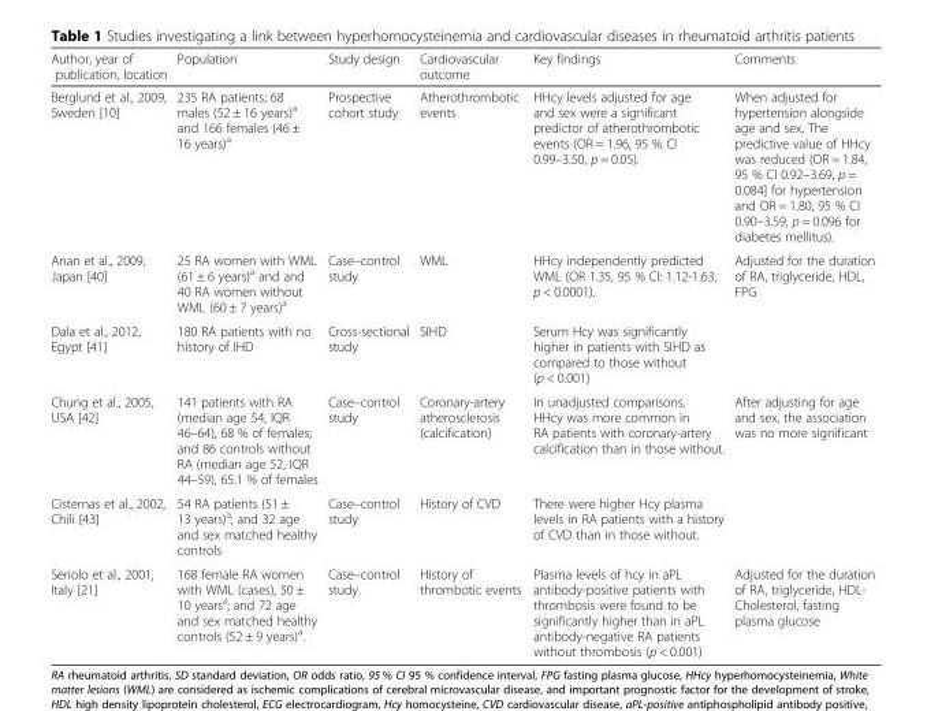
<table><thead><tr><td>Author, year of publication, location</td><td>Population</td><td>Study design</td><td>Cardiovascular outcome</td><td>Key findings</td><td>Comments</td></tr></thead><tbody><tr><td>Berglund et al., 2009, Sweden [10]</td><td>235 RA patients; 68 males (52 ± 16 years)<sup>a</sup> and 166 females (46 ± 16 years)<sup>a</sup></td><td>Prospective cohort study</td><td>Atherothrombotic events</td><td>HHcy levels adjusted for age and sex were a significant predictor of atherothrombotic events (OR = 1.96, 95 % CI 0.99–3.50, p = 0.05).</td><td>When adjusted for hypertension alongside age and sex, The predictive value of HHcy was reduced (OR = 1.84, 95 % CI 0.92–3.69, p = 0.084] for hypertension and OR = 1.80, 95 % CI 0.90–3.59, p = 0.096 for diabetes mellitus).</td></tr><tr><td>Anan et al., 2009, Japan [40]</td><td>25 RA women with WML (61 ± 6 years)<sup>a</sup> and and 40 RA women without WML (60 ± 7 years)<sup>a</sup></td><td>Case–control study</td><td>WML</td><td>HHcy independently predicted WML (OR 1.35, 95 % CI: 1.12-1.63, p &lt; 0.0001).</td><td>Adjusted for the duration of RA, triglyceride, HDL, FPG</td></tr><tr><td>Dala et al., 2012, Egypt [41]</td><td>180 RA patients with no history of IHD</td><td>Cross-sectional study</td><td>SIHD</td><td>Serum Hcy was significantly higher in patients with SIHD as compared to those without (p &lt; 0.001)</td><td></td></tr><tr><td>Chung et al., 2005, USA [42]</td><td>141 patients with RA (median age 54, IQR 46–64), 68 % of females; and 86 controls without RA (median age 52, IQR 44–59), 65.1 % of females</td><td>Case–control study</td><td>Coronary-artery atherosclerosis (calcification)</td><td>In unadjusted comparisons, HHcy was more common in RA patients with coronary-artery calcification than in those without.</td><td>After adjusting for age and sex, the association was no more significant</td></tr><tr><td>Cisternas et al., 2002, Chili [43]</td><td>54 RA patients (51 ± 13 years)<sup>a</sup>; and 32 age and sex matched healthy controls</td><td>Case–control study</td><td>History of CVD</td><td>There were higher Hcy plasma levels in RA patients with a history of CVD than in those without.</td><td></td></tr><tr><td>Seriolo et al., 2001, Italy [21]</td><td>168 female RA women with WML (cases), 50 ± 10 years<sup>a</sup>; and 72 age and sex matched healthy controls (52 ± 9 years)<sup>a</sup>.</td><td>Case–control study.</td><td>History of thrombotic events</td><td>Plasma levels of hcy in aPL antibody-positive patients with thrombosis were found to be significantly higher than in aPL antibody-negative RA patients without thrombosis (p &lt; 0.001)</td><td>Adjusted for the duration of RA, triglyceride, HDL- Cholesterol, fasting plasma glucose</td></tr></tbody></table>